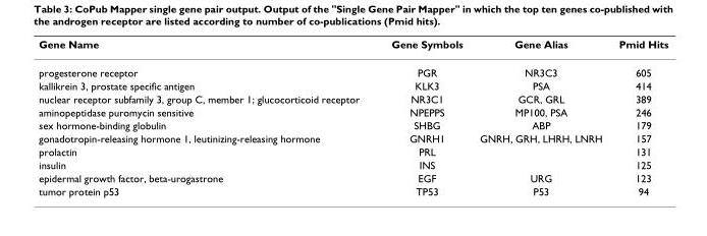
<table><thead><tr><td>Gene Name</td><td>Gene Symbols</td><td>Gene Alias</td><td>Pmid Hits</td></tr></thead><tbody><tr><td>progesterone receptor</td><td>PGR</td><td>NR3C3</td><td>605</td></tr><tr><td>kallikrein 3, prostate specific antigen</td><td>KLK3</td><td>PSA</td><td>414</td></tr><tr><td>nuclear receptor subfamily 3, group C, member 1; glucocorticoid receptor</td><td>NR3C1</td><td>GCR, GRL</td><td>389</td></tr><tr><td>aminopeptidase puromycin sensitive</td><td>NPEPPS</td><td>MP100, PSA</td><td>246</td></tr><tr><td>sex hormone-binding globulin</td><td>SHBG</td><td>ABP</td><td>179</td></tr><tr><td>gonadotropin-releasing hormone 1, leutinizing-releasing hormone</td><td>GNRH1</td><td>GNRH, GRH, LHRH, LNRH</td><td>157</td></tr><tr><td>prolactin</td><td>PRL</td><td></td><td>131</td></tr><tr><td>insulin</td><td>INS</td><td></td><td>125</td></tr><tr><td>epidermal growth factor, beta-urogastrone</td><td>EGF</td><td>URG</td><td>123</td></tr><tr><td>tumor protein p53</td><td>TP53</td><td>P53</td><td>94</td></tr></tbody></table>